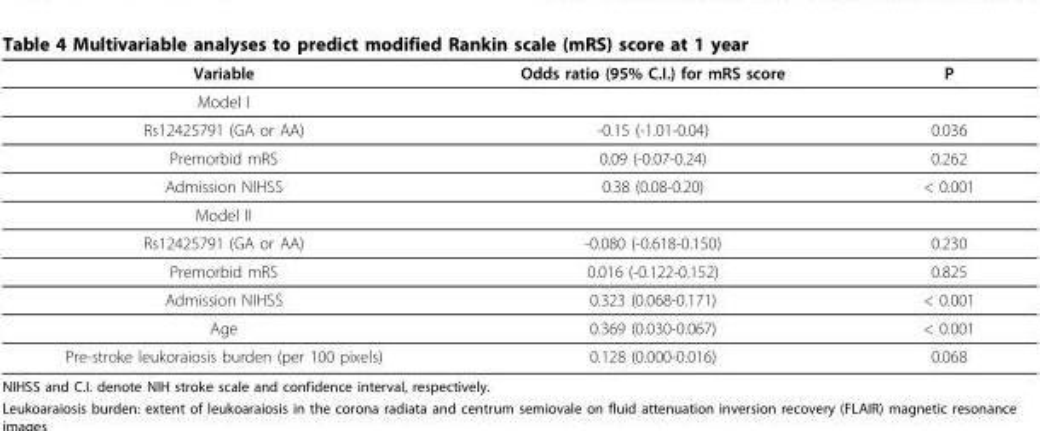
<table><thead><tr><td>Variable</td><td>Odds ratio (95% C.I.) for mRS score</td><td>P</td></tr></thead><tbody><tr><td colspan="3">Model I</td></tr><tr><td>Rs12425791 (GA or AA)</td><td>-0.15 (-1.01-0.04)</td><td>0.036</td></tr><tr><td>Premorbid mRS</td><td>0.09 (-0.07-0.24)</td><td>0.262</td></tr><tr><td>Admission NIHSS</td><td>0.38 (0.08-0.20)</td><td>&lt; 0.001</td></tr><tr><td colspan="3">Model II</td></tr><tr><td>Rs12425791 (GA or AA)</td><td>-0.080 (-0.618-0.150)</td><td>0.230</td></tr><tr><td>Premorbid mRS</td><td>0.016 (-0.122-0.152)</td><td>0.825</td></tr><tr><td>Admission NIHSS</td><td>0.323 (0.068-0.171)</td><td>&lt; 0.001</td></tr><tr><td>Age</td><td>0.369 (0.030-0.067)</td><td>&lt; 0.001</td></tr><tr><td>Pre-stroke leukoraiosis burden (per 100 pixels)</td><td>0.128 (0.000-0.016)</td><td>0.068</td></tr></tbody></table>